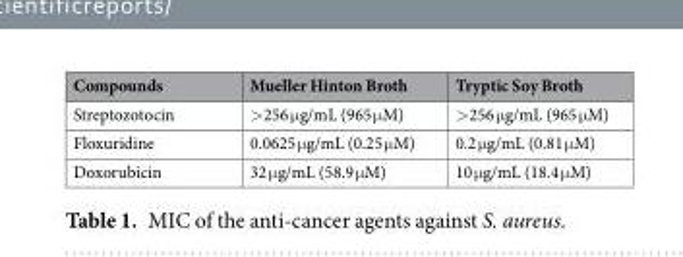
<table><thead><tr><td>Compounds</td><td>Mueller Hinton Broth</td><td>Tryptic Soy Broth</td></tr></thead><tbody><tr><td>Streptozotocin</td><td>&gt;256 μg/mL (965 μM)</td><td>&gt;256 μg/mL (965 μM)</td></tr><tr><td>Floxuridine</td><td>0.0625 μg/mL (0.25 μM)</td><td>0.2 μg/mL (0.81 μM)</td></tr><tr><td>Doxorubicin</td><td>32 μg/mL (58.9 μM)</td><td>10 μg/mL (18.4 μM)</td></tr></tbody></table>